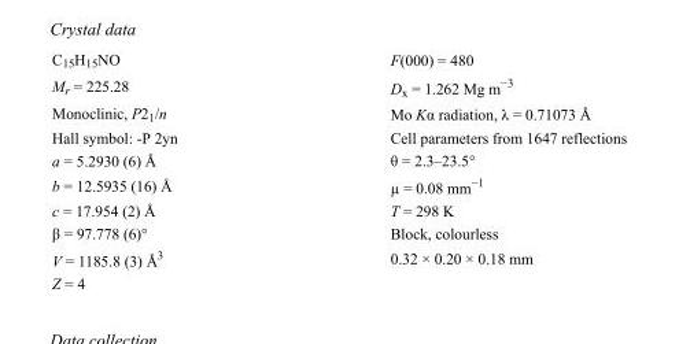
<table><tbody><tr><td>C<sub>15</sub>H<sub>15</sub>NO</td><td>F(000) = 480</td></tr><tr><td>M<sub>r</sub> = 225.28</td><td>D<sub>x</sub> = 1.262 Mg m<sup>−3</sup></td></tr><tr><td>Monoclinic, P2<sub>1</sub>/n</td><td>Mo Kα radiation, λ = 0.71073 Å</td></tr><tr><td>Hall symbol: -P 2yn</td><td>Cell parameters from 1647 reflections</td></tr><tr><td>a = 5.2930 (6) Å</td><td>θ = 2.3–23.5°</td></tr><tr><td>b = 12.5935 (16) Å</td><td>µ = 0.08 mm<sup>−1</sup></td></tr><tr><td>c = 17.954 (2) Å</td><td>T = 298 K</td></tr><tr><td>β = 97.778 (6)°</td><td>Block, colourless</td></tr><tr><td>V = 1185.8 (3) Å<sup>3</sup></td><td>0.32 × 0.20 × 0.18 mm</td></tr><tr><td>Z = 4</td><td></td></tr></tbody></table>